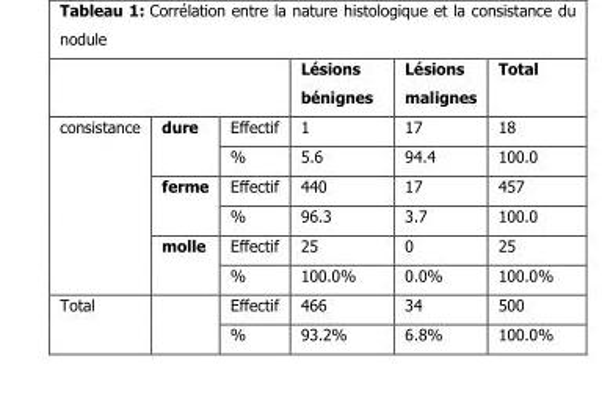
<table><thead><tr><td></td><td></td><td></td><td>Lésions bénignes</td><td>Lésions malignes</td><td>Total</td></tr></thead><tbody><tr><td rowspan="6">consistance</td><td rowspan="2">dure</td><td>Effectif</td><td>1</td><td>17</td><td>18</td></tr><tr><td>%</td><td>5.6</td><td>94.4</td><td>100.0</td></tr><tr><td rowspan="2">ferme</td><td>Effectif</td><td>440</td><td>17</td><td>457</td></tr><tr><td>%</td><td>96.3</td><td>3.7</td><td>100.0</td></tr><tr><td rowspan="2">molle</td><td>Effectif</td><td>25</td><td>0</td><td>25</td></tr><tr><td>%</td><td>100.0%</td><td>0.0%</td><td>100.0%</td></tr><tr><td rowspan="2">Total</td><td rowspan="2"></td><td>Effectif</td><td>466</td><td>34</td><td>500</td></tr><tr><td>%</td><td>93.2%</td><td>6.8%</td><td>100.0%</td></tr></tbody></table>